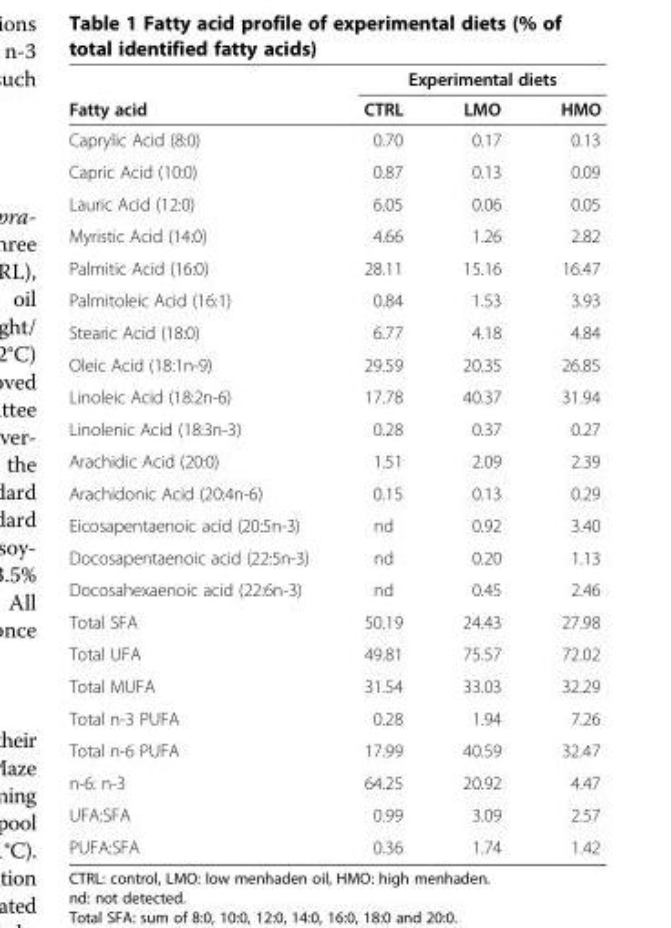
<table><thead><tr><td rowspan="2">Fatty acid</td><td colspan="3">Experimental diets</td></tr><tr><td>CTRL</td><td>LMO</td><td>HMO</td></tr></thead><tbody><tr><td>Caprylic Acid (8:0)</td><td>0.70</td><td>0.17</td><td>0.13</td></tr><tr><td>Capric Acid (10:0)</td><td>0.87</td><td>0.13</td><td>0.09</td></tr><tr><td>Lauric Acid (12:0)</td><td>6.05</td><td>0.06</td><td>0.05</td></tr><tr><td>Myristic Acid (14:0)</td><td>4.66</td><td>1.26</td><td>2.82</td></tr><tr><td>Palmitic Acid (16:0)</td><td>28.11</td><td>15.16</td><td>16.47</td></tr><tr><td>Palmitoleic Acid (16:1)</td><td>0.84</td><td>1.53</td><td>3.93</td></tr><tr><td>Stearic Acid (18:0)</td><td>6.77</td><td>4.18</td><td>4.84</td></tr><tr><td>Oleic Acid (18:1n-9)</td><td>29.59</td><td>20.35</td><td>26.85</td></tr><tr><td>Linoleic Acid (18:2n-6)</td><td>17.78</td><td>40.37</td><td>31.94</td></tr><tr><td>Linolenic Acid (18:3n-3)</td><td>0.28</td><td>0.37</td><td>0.27</td></tr><tr><td>Arachidic Acid (20:0)</td><td>1.51</td><td>2.09</td><td>2.39</td></tr><tr><td>Arachidonic Acid (20:4n-6)</td><td>0.15</td><td>0.13</td><td>0.29</td></tr><tr><td>Eicosapentaenoic acid (20:5n-3)</td><td>nd</td><td>0.92</td><td>3.40</td></tr><tr><td>Docosapentaenoic acid (22:5n-3)</td><td>nd</td><td>0.20</td><td>1.13</td></tr><tr><td>Docosahexaenoic acid (22:6n-3)</td><td>nd</td><td>0.45</td><td>2.46</td></tr><tr><td>Total SFA</td><td>50.19</td><td>24.43</td><td>27.98</td></tr><tr><td>Total UFA</td><td>49.81</td><td>75.57</td><td>72.02</td></tr><tr><td>Total MUFA</td><td>31.54</td><td>33.03</td><td>32.29</td></tr><tr><td>Total n-3 PUFA</td><td>0.28</td><td>1.94</td><td>7.26</td></tr><tr><td>Total n-6 PUFA</td><td>17.99</td><td>40.59</td><td>32.47</td></tr><tr><td>n-6: n-3</td><td>64.25</td><td>20.92</td><td>4.47</td></tr><tr><td>UFA:SFA</td><td>0.99</td><td>3.09</td><td>2.57</td></tr><tr><td>PUFA:SFA</td><td>0.36</td><td>1.74</td><td>1.42</td></tr></tbody></table>